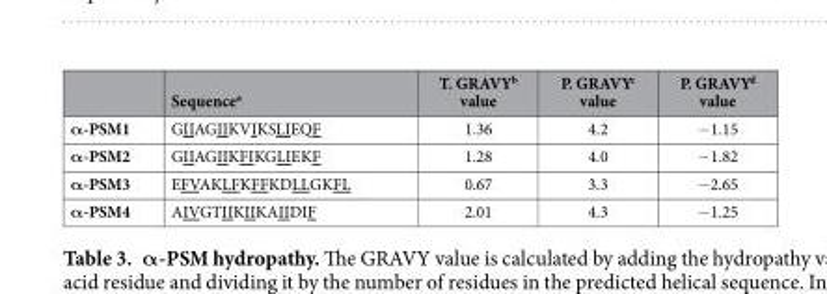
<table><thead><tr><td></td><td>Sequence<sup>a</sup></td><td>T. GRAVY<sup>b</sup> value</td><td>P. GRAVY<sup>c</sup> value</td><td>P. GRAVY<sup>d</sup> value</td></tr></thead><tbody><tr><td>α-PSM1</td><td>GIIAGIIKVIKSLIEQF</td><td>1.36</td><td>4.2</td><td>− 1.15</td></tr><tr><td>α-PSM2</td><td>GIIAGIIKFIKGLIEKF</td><td>1.28</td><td>4.0</td><td>− 1.82</td></tr><tr><td>α-PSM3</td><td>EFVAKLFKFFKDLLGKFL</td><td>0.67</td><td>3.3</td><td>− 2.65</td></tr><tr><td>α-PSM4</td><td>AIVGTIIKIIKAIIDIF</td><td>2.01</td><td>4.3</td><td>− 1.25</td></tr></tbody></table>